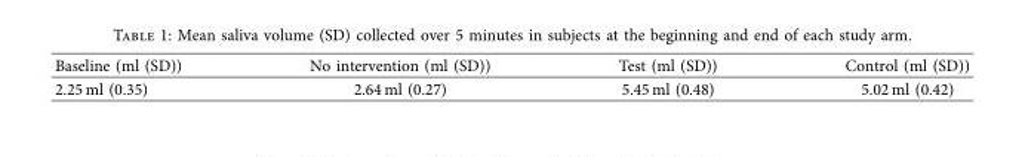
<table><thead><tr><td>Baseline (ml (SD))</td><td>No intervention (ml (SD))</td><td>Test (ml (SD))</td><td>Control (ml (SD))</td></tr></thead><tbody><tr><td>2.25 ml (0.35)</td><td>2.64 ml (0.27)</td><td>5.45 ml (0.48)</td><td>5.02 ml (0.42)</td></tr></tbody></table>